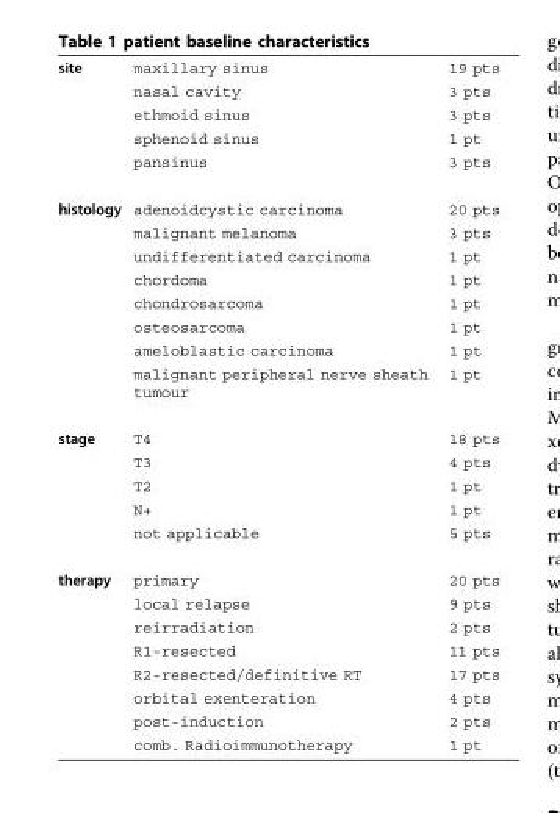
<table><tbody><tr><td rowspan="5">site</td><td>maxillary sinus</td><td>19 pts</td></tr><tr><td>nasal cavity</td><td>3 pts</td></tr><tr><td>ethmoid sinus</td><td>3 pts</td></tr><tr><td>sphenoid sinus</td><td>1 pt</td></tr><tr><td>pansinus</td><td>3 pts</td></tr><tr><td rowspan="8">histology</td><td>adenoidcystic carcinoma</td><td>20 pts</td></tr><tr><td>malignant melanoma</td><td>3 pts</td></tr><tr><td>undifferentiated carcinoma</td><td>1 pt</td></tr><tr><td>chordoma</td><td>1 pt</td></tr><tr><td>chondrosarcoma</td><td>1 pt</td></tr><tr><td>osteosarcoma</td><td>1 pt</td></tr><tr><td>ameloblastic carcinoma</td><td>1 pt</td></tr><tr><td>malignant peripheral nerve sheath tumour</td><td>1 pt</td></tr><tr><td rowspan="5">stage</td><td>T4</td><td>18 pts</td></tr><tr><td>T3</td><td>4 pts</td></tr><tr><td>T2</td><td>1 pt</td></tr><tr><td>N+</td><td>1 pt</td></tr><tr><td>not applicable</td><td>5 pts</td></tr><tr><td rowspan="8">therapy</td><td>primary</td><td>20 pts</td></tr><tr><td>local relapse</td><td>9 pts</td></tr><tr><td>reirradiation</td><td>2 pts</td></tr><tr><td>R1-resected</td><td>11 pts</td></tr><tr><td>R2-resected/definitive RT</td><td>17 pts</td></tr><tr><td>orbital exenteration</td><td>4 pts</td></tr><tr><td>post-induction</td><td>2 pts</td></tr><tr><td>comb. Radioimmunotherapy</td><td>1 pt</td></tr></tbody></table>